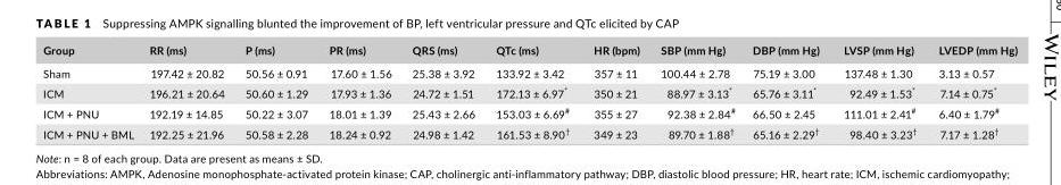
<table><thead><tr><td>Group</td><td>RR (ms)</td><td>P (ms)</td><td>PR (ms)</td><td>QRS (ms)</td><td>QTc (ms)</td><td>HR (bpm)</td><td>SBP (mm Hg)</td><td>DBP (mm Hg)</td><td>LVSP (mm Hg)</td><td>LVEDP (mm Hg)</td></tr></thead><tbody><tr><td>Sham</td><td>197.42 ± 20.82</td><td>50.56 ± 0.91</td><td>17.60 ± 1.56</td><td>25.38 ± 3.92</td><td>133.92 ± 3.42</td><td>357 ± 11</td><td>100.44 ± 2.78</td><td>75.19 ± 3.00</td><td>137.48 ± 1.30</td><td>3.13 ± 0.57</td></tr><tr><td>ICM</td><td>196.21 ± 20.64</td><td>50.60 ± 1.29</td><td>17.93 ± 1.36</td><td>24.72 ± 1.51</td><td>172.13 ± 6.97*</td><td>350 ± 21</td><td>88.97 ± 3.13*</td><td>65.76 ± 3.11*</td><td>92.49 ± 1.53*</td><td>7.14 ± 0.75*</td></tr><tr><td>ICM + PNU</td><td>192.19 ± 14.85</td><td>50.22 ± 3.07</td><td>18.01 ± 1.39</td><td>25.43 ± 2.66</td><td>153.03 ± 6.69<sup>#</sup></td><td>355 ± 27</td><td>92.38 ± 2.84<sup>#</sup></td><td>66.50 ± 2.45</td><td>111.01 ± 2.41<sup>#</sup></td><td>6.40 ± 1.79<sup>#</sup></td></tr><tr><td>ICM + PNU + BML</td><td>192.25 ± 21.96</td><td>50.58 ± 2.28</td><td>18.24 ± 0.92</td><td>24.98 ± 1.42</td><td>161.53 ± 8.90<sup>†</sup></td><td>349 ± 23</td><td>89.70 ± 1.88<sup>†</sup></td><td>65.16 ± 2.29<sup>†</sup></td><td>98.40 ± 3.23<sup>†</sup></td><td>7.17 ± 1.28<sup>†</sup></td></tr></tbody></table>